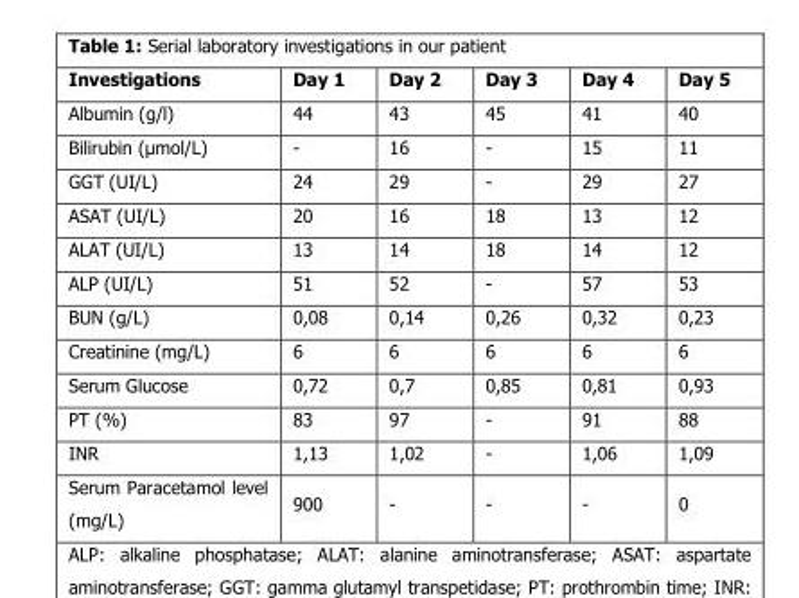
<table><thead><tr><td>Investigations</td><td>Day 1</td><td>Day 2</td><td>Day 3</td><td>Day 4</td><td>Day 5</td></tr></thead><tbody><tr><td>Albumin (g/l)</td><td>44</td><td>43</td><td>45</td><td>41</td><td>40</td></tr><tr><td>Bilirubin (µmol/L)</td><td>-</td><td>16</td><td>-</td><td>15</td><td>11</td></tr><tr><td>GGT (UI/L)</td><td>24</td><td>29</td><td>-</td><td>29</td><td>27</td></tr><tr><td>ASAT (UI/L)</td><td>20</td><td>16</td><td>18</td><td>13</td><td>12</td></tr><tr><td>ALAT (UI/L)</td><td>13</td><td>14</td><td>18</td><td>14</td><td>12</td></tr><tr><td>ALP (UI/L)</td><td>51</td><td>52</td><td>-</td><td>57</td><td>53</td></tr><tr><td>BUN (g/L)</td><td>0,08</td><td>0,14</td><td>0,26</td><td>0,32</td><td>0,23</td></tr><tr><td>Creatinine (mg/L)</td><td>6</td><td>6</td><td>6</td><td>6</td><td>6</td></tr><tr><td>Serum Glucose</td><td>0,72</td><td>0,7</td><td>0,85</td><td>0,81</td><td>0,93</td></tr><tr><td>PT (%)</td><td>83</td><td>97</td><td>-</td><td>91</td><td>88</td></tr><tr><td>INR</td><td>1,13</td><td>1,02</td><td>-</td><td>1,06</td><td>1,09</td></tr><tr><td>Serum Paracetamol level (mg/L)</td><td>900</td><td>-</td><td>-</td><td>-</td><td>0</td></tr></tbody></table>